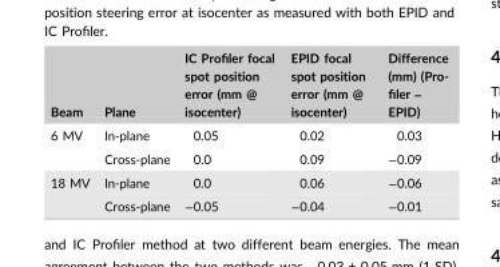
<table><thead><tr><td>Beam</td><td>Plane</td><td>IC Profiler focal spot position error (mm @ isocenter)</td><td>EPID focal spot position error (mm @ isocenter)</td><td>Difference (mm) (Pro- filer – EPID)</td></tr></thead><tbody><tr><td rowspan="2">6 MV</td><td>In-plane</td><td>0.05</td><td>0.02</td><td>0.03</td></tr><tr><td>Cross-plane</td><td>0.0</td><td>0.09</td><td>−0.09</td></tr><tr><td rowspan="2">18 MV</td><td>In-plane</td><td>0.0</td><td>0.06</td><td>−0.06</td></tr><tr><td>Cross-plane</td><td>−0.05</td><td>−0.04</td><td>−0.01</td></tr></tbody></table>